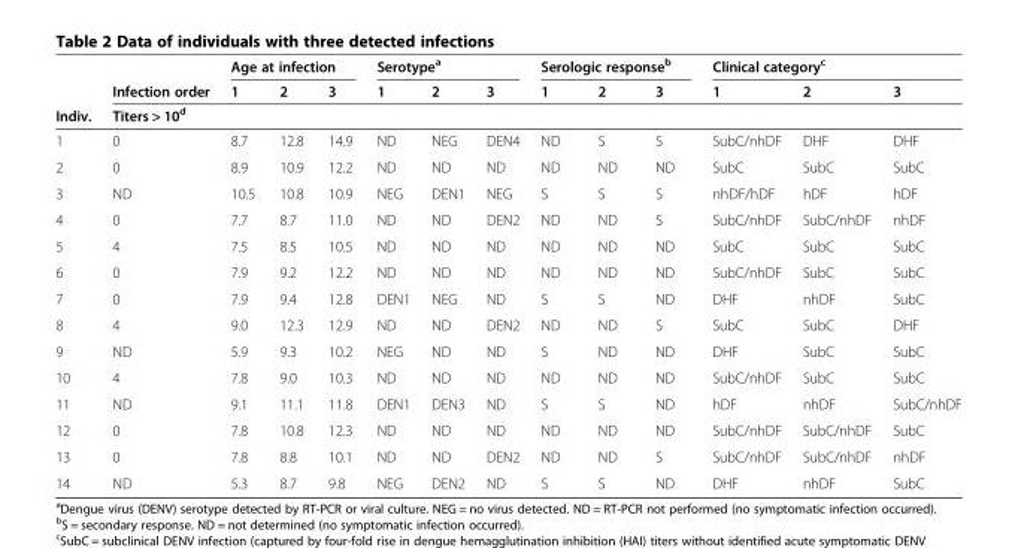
<table><thead><tr><td rowspan="3">Indiv.</td><td rowspan="3">Infection order Titers &gt; 10<sup>d</sup></td><td colspan="3">Age at infection</td><td colspan="3">Serotype<sup>a</sup></td><td colspan="3">Serologic response<sup>b</sup></td><td colspan="3">Clinical category<sup>c</sup></td></tr><tr><td rowspan="2">1</td><td rowspan="2">2</td><td rowspan="2">3</td><td rowspan="2">1</td><td rowspan="2">2</td><td rowspan="2">3</td><td rowspan="2">1</td><td rowspan="2">2</td><td rowspan="2">3</td><td rowspan="2">1</td><td rowspan="2">2</td><td rowspan="2">3</td></tr><tr></tr></thead><tbody><tr><td>1</td><td>0</td><td>8.7</td><td>12.8</td><td>14.9</td><td>ND</td><td>NEG</td><td>DEN4</td><td>ND</td><td>S</td><td>S</td><td>SubC/nhDF</td><td>DHF</td><td>DHF</td></tr><tr><td>2</td><td>0</td><td>8.9</td><td>10.9</td><td>12.2</td><td>ND</td><td>ND</td><td>ND</td><td>ND</td><td>ND</td><td>ND</td><td>SubC</td><td>SubC</td><td>SubC</td></tr><tr><td>3</td><td>ND</td><td>10.5</td><td>10.8</td><td>10.9</td><td>NEG</td><td>DEN1</td><td>NEG</td><td>S</td><td>S</td><td>S</td><td>nhDF/hDF</td><td>hDF</td><td>hDF</td></tr><tr><td>4</td><td>0</td><td>7.7</td><td>8.7</td><td>11.0</td><td>ND</td><td>ND</td><td>DEN2</td><td>ND</td><td>ND</td><td>S</td><td>SubC/nhDF</td><td>SubC/nhDF</td><td>nhDF</td></tr><tr><td>5</td><td>4</td><td>7.5</td><td>8.5</td><td>10.5</td><td>ND</td><td>ND</td><td>ND</td><td>ND</td><td>ND</td><td>ND</td><td>SubC</td><td>SubC</td><td>SubC</td></tr><tr><td>6</td><td>0</td><td>7.9</td><td>9.2</td><td>12.2</td><td>ND</td><td>ND</td><td>ND</td><td>ND</td><td>ND</td><td>ND</td><td>SubC/nhDF</td><td>SubC</td><td>SubC</td></tr><tr><td>7</td><td>0</td><td>7.9</td><td>9.4</td><td>12.8</td><td>DEN1</td><td>NEG</td><td>ND</td><td>S</td><td>S</td><td>ND</td><td>DHF</td><td>nhDF</td><td>SubC</td></tr><tr><td>8</td><td>4</td><td>9.0</td><td>12.3</td><td>12.9</td><td>ND</td><td>ND</td><td>DEN2</td><td>ND</td><td>ND</td><td>S</td><td>SubC</td><td>SubC</td><td>DHF</td></tr><tr><td>9</td><td>ND</td><td>5.9</td><td>9.3</td><td>10.2</td><td>NEG</td><td>ND</td><td>ND</td><td>S</td><td>ND</td><td>ND</td><td>DHF</td><td>SubC</td><td>SubC</td></tr><tr><td>10</td><td>4</td><td>7.8</td><td>9.0</td><td>10.3</td><td>ND</td><td>ND</td><td>ND</td><td>ND</td><td>ND</td><td>ND</td><td>SubC/nhDF</td><td>SubC</td><td>SubC</td></tr><tr><td>11</td><td>ND</td><td>9.1</td><td>11.1</td><td>11.8</td><td>DEN1</td><td>DEN3</td><td>ND</td><td>S</td><td>S</td><td>ND</td><td>hDF</td><td>nhDF</td><td>SubC/nhDF</td></tr><tr><td>12</td><td>0</td><td>7.8</td><td>10.8</td><td>12.3</td><td>ND</td><td>ND</td><td>ND</td><td>ND</td><td>ND</td><td>ND</td><td>SubC/nhDF</td><td>SubC/nhDF</td><td>SubC</td></tr><tr><td>13</td><td>0</td><td>7.8</td><td>8.8</td><td>10.1</td><td>ND</td><td>ND</td><td>DEN2</td><td>ND</td><td>ND</td><td>S</td><td>SubC/nhDF</td><td>SubC/nhDF</td><td>nhDF</td></tr><tr><td>14</td><td>ND</td><td>5.3</td><td>8.7</td><td>9.8</td><td>NEG</td><td>DEN2</td><td>ND</td><td>S</td><td>S</td><td>ND</td><td>DHF</td><td>nhDF</td><td>SubC</td></tr></tbody></table>